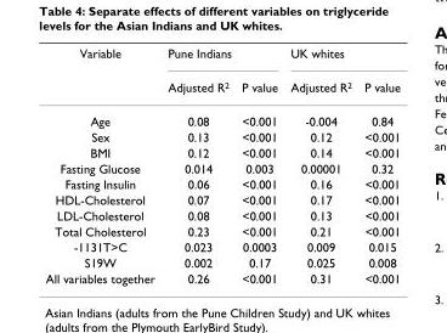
<table><thead><tr><td rowspan="2">Variable</td><td colspan="2">Pune Indians</td><td colspan="2">UK whites</td></tr><tr><td>Adjusted R<sup>2</sup></td><td>P value</td><td>Adjusted R<sup>2</sup></td><td>P value</td></tr></thead><tbody><tr><td>Age</td><td>0.08</td><td>&lt;0.001</td><td>-0.004</td><td>0.84</td></tr><tr><td>Sex</td><td>0.13</td><td>&lt;0.001</td><td>0.12</td><td>&lt;0.001</td></tr><tr><td>BMI</td><td>0.12</td><td>&lt;0.001</td><td>0.14</td><td>&lt;0.001</td></tr><tr><td>Fasting Glucose</td><td>0.014</td><td>0.003</td><td>0.00001</td><td>0.32</td></tr><tr><td>Fasting Insulin</td><td>0.06</td><td>&lt;0.001</td><td>0.16</td><td>&lt;0.001</td></tr><tr><td>HDL-Cholesterol</td><td>0.07</td><td>&lt;0.001</td><td>0.17</td><td>&lt;0.001</td></tr><tr><td>LDL-Cholesterol</td><td>0.08</td><td>&lt;0.001</td><td>0.13</td><td>&lt;0.001</td></tr><tr><td>Total Cholesterol</td><td>0.23</td><td>&lt;0.001</td><td>0.21</td><td>&lt;0.001</td></tr><tr><td>-1131T&gt;C</td><td>0.023</td><td>0.0003</td><td>0.009</td><td>0.015</td></tr><tr><td>S19W</td><td>0.002</td><td>0.17</td><td>0.025</td><td>0.008</td></tr><tr><td>All variables together</td><td>0.26</td><td>&lt;0.001</td><td>0.31</td><td>&lt;0.001</td></tr></tbody></table>